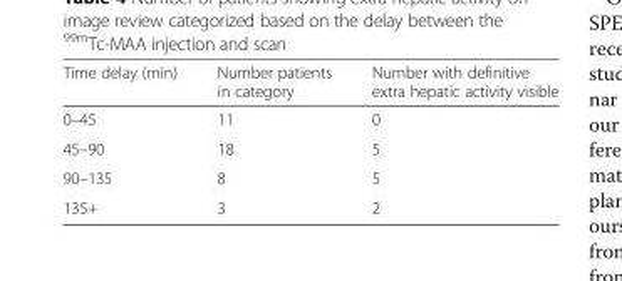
<table><thead><tr><td>Time delay (min)</td><td>Number patients in category</td><td>Number with definitive extra hepatic activity visible</td></tr></thead><tbody><tr><td>0–45</td><td>11</td><td>0</td></tr><tr><td>45–90</td><td>18</td><td>5</td></tr><tr><td>90–135</td><td>8</td><td>5</td></tr><tr><td>135+</td><td>3</td><td>2</td></tr></tbody></table>